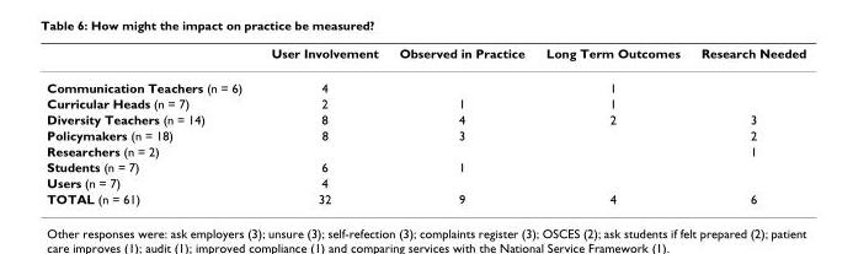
<table><thead><tr><td></td><td>User Involvement</td><td>Observed in Practice</td><td>Long Term Outcomes</td><td>Research Needed</td></tr></thead><tbody><tr><td>Communication Teachers (n = 6)</td><td>4</td><td></td><td>1</td><td></td></tr><tr><td>Curricular Heads (n = 7)</td><td>2</td><td>1</td><td>1</td><td></td></tr><tr><td>Diversity Teachers (n = 14)</td><td>8</td><td>4</td><td>2</td><td>3</td></tr><tr><td>Policymakers (n = 18)</td><td>8</td><td>3</td><td></td><td>2</td></tr><tr><td>Researchers (n = 2)</td><td></td><td></td><td></td><td>1</td></tr><tr><td>Students (n = 7)</td><td>6</td><td>1</td><td></td><td></td></tr><tr><td>Users (n = 7)</td><td>4</td><td></td><td></td><td></td></tr><tr><td>TOTAL (n = 61)</td><td>32</td><td>9</td><td>4</td><td>6</td></tr></tbody></table>